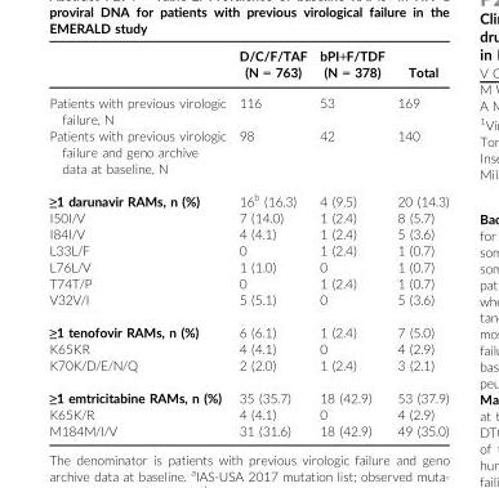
<table><thead><tr><td></td><td>D/C/F/TAF (N = 763)</td><td>bPI+F/TDF (N = 378)</td><td>Total</td></tr></thead><tbody><tr><td>Patients with previous virologic failure, N</td><td>116</td><td>53</td><td>169</td></tr><tr><td>Patients with previous virologic failure and geno archive data at baseline, N</td><td>98</td><td>42</td><td>140</td></tr><tr><td>≥1 darunavir RAMs, n (%)</td><td>16<sup>b</sup> (16.3)</td><td>4 (9.5)</td><td>20 (14.3)</td></tr><tr><td>I50I/V</td><td>7 (14.0)</td><td>1 (2.4)</td><td>8 (5.7)</td></tr><tr><td>I84I/V</td><td>4 (4.1)</td><td>1 (2.4)</td><td>5 (3.6)</td></tr><tr><td>L33L/F</td><td>0</td><td>1 (2.4)</td><td>1 (0.7)</td></tr><tr><td>L76L/V</td><td>1 (1.0)</td><td>0</td><td>1 (0.7)</td></tr><tr><td>T74T/P</td><td>0</td><td>1 (2.4)</td><td>1 (0.7)</td></tr><tr><td>V32V/I</td><td>5 (5.1)</td><td>0</td><td>5 (3.6)</td></tr><tr><td>≥1 tenofovir RAMs, n (%)</td><td>6 (6.1)</td><td>1 (2.4)</td><td>7 (5.0)</td></tr><tr><td>K65KR</td><td>4 (4.1)</td><td>0</td><td>4 (2.9)</td></tr><tr><td>K70K/D/E/N/Q</td><td>2 (2.0)</td><td>1 (2.4)</td><td>3 (2.1)</td></tr><tr><td>≥1 emtricitabine RAMs, n (%)</td><td>35 (35.7)</td><td>18 (42.9)</td><td>53 (37.9)</td></tr><tr><td>K65K/R</td><td>4 (4.1)</td><td>0</td><td>4 (2.9)</td></tr><tr><td>M184M/I/V</td><td>31 (31.6)</td><td>18 (42.9)</td><td>49 (35.0)</td></tr></tbody></table>